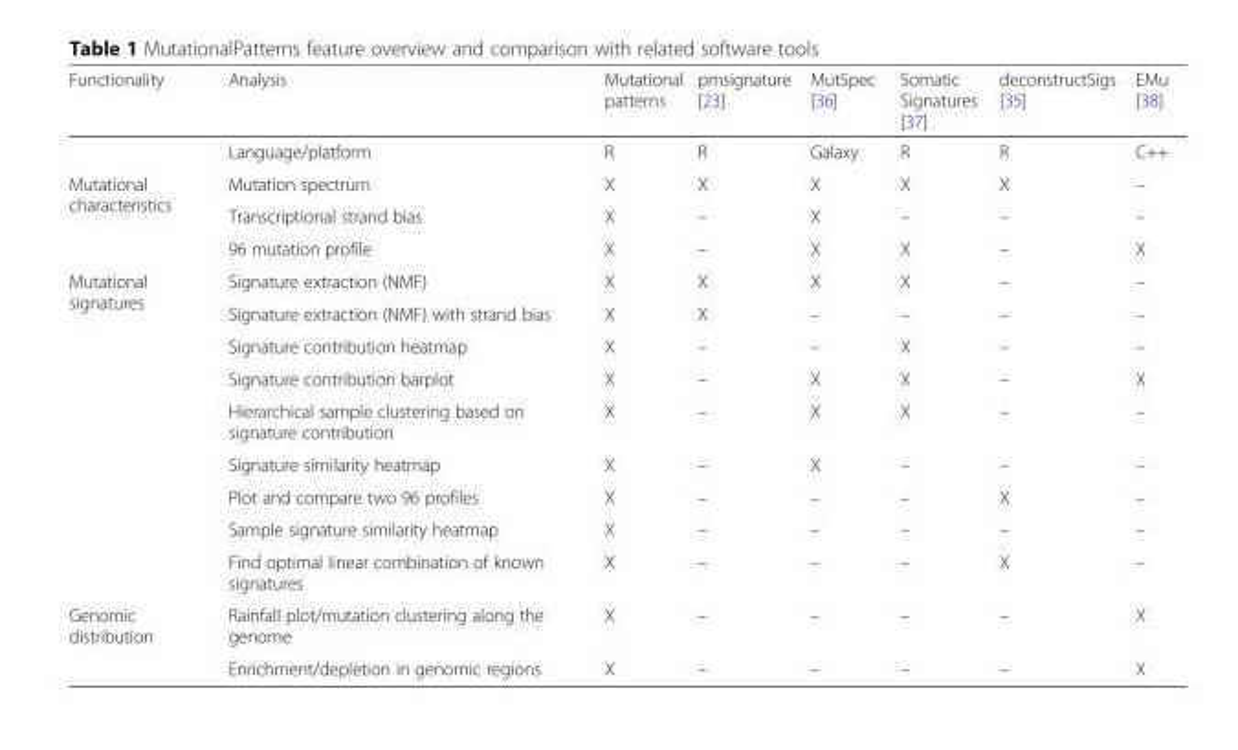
<table><thead><tr><td>Functionality</td><td>Analysis</td><td>Mutational patterns</td><td>pmsignature [23]</td><td>MutSpec [36]</td><td>Somatic Signatures [37]</td><td>deconstructSigs [35]</td><td>EMu [38]</td></tr></thead><tbody><tr><td></td><td>Language/platform</td><td>R</td><td>R</td><td>Galaxy</td><td>R</td><td>R</td><td>C++</td></tr><tr><td rowspan="3">Mutational characteristics</td><td>Mutation spectrum</td><td>X</td><td>X</td><td>X</td><td>X</td><td>X</td><td>–</td></tr><tr><td>Transcriptional strand bias</td><td>X</td><td>–</td><td>X</td><td>–</td><td>–</td><td>–</td></tr><tr><td>96 mutation profile</td><td>X</td><td>–</td><td>X</td><td>X</td><td>–</td><td>X</td></tr><tr><td rowspan="9">Mutational signatures</td><td>Signature extraction (NMF)</td><td>X</td><td>X</td><td>X</td><td>X</td><td>–</td><td>–</td></tr><tr><td>Signature extraction (NMF) with strand bias</td><td>X</td><td>X</td><td>–</td><td>–</td><td>–</td><td>–</td></tr><tr><td>Signature contribution heatmap</td><td>X</td><td>–</td><td>–</td><td>X</td><td>–</td><td>–</td></tr><tr><td>Signature contribution barplot</td><td>X</td><td>–</td><td>X</td><td>X</td><td>–</td><td>X</td></tr><tr><td>Hierarchical sample clustering based on signature contribution</td><td>X</td><td>–</td><td>X</td><td>X</td><td>–</td><td>–</td></tr><tr><td>Signature similarity heatmap</td><td>X</td><td>–</td><td>X</td><td>–</td><td>–</td><td>–</td></tr><tr><td>Plot and compare two 96 profiles</td><td>X</td><td>–</td><td>–</td><td>–</td><td>X</td><td>–</td></tr><tr><td>Sample signature similarity heatmap</td><td>X</td><td>–</td><td>–</td><td>–</td><td>–</td><td>–</td></tr><tr><td>Find optimal linear combination of known signatures</td><td>X</td><td>–</td><td>–</td><td>–</td><td>X</td><td>–</td></tr><tr><td rowspan="2">Genomic distribution</td><td>Rainfall plot/mutation clustering along the genome</td><td>X</td><td>–</td><td>–</td><td>–</td><td>–</td><td>X</td></tr><tr><td>Enrichment/depletion in genomic regions</td><td>X</td><td>–</td><td>–</td><td>–</td><td>–</td><td>X</td></tr></tbody></table>